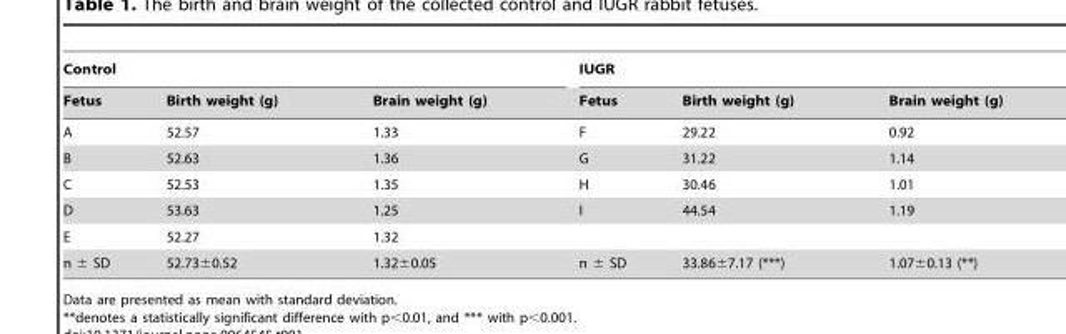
<table><thead><tr><td colspan="3">Control</td><td colspan="3">IUGR</td></tr><tr><td>Fetus</td><td>Birth weight (g)</td><td>Brain weight (g)</td><td>Fetus</td><td>Birth weight (g)</td><td>Brain weight (g)</td></tr></thead><tbody><tr><td>A</td><td>52.57</td><td>1.33</td><td>F</td><td>29.22</td><td>0.92</td></tr><tr><td>B</td><td>52.63</td><td>1.36</td><td>G</td><td>31.22</td><td>1.14</td></tr><tr><td>C</td><td>52.53</td><td>1.35</td><td>H</td><td>30.46</td><td>1.01</td></tr><tr><td>D</td><td>53.63</td><td>1.25</td><td>I</td><td>44.54</td><td>1.19</td></tr><tr><td>E</td><td>52.27</td><td>1.32</td><td></td><td></td><td></td></tr><tr><td>n ± SD</td><td>52.73±0.52</td><td>1.32±0.05</td><td>n ± SD</td><td>33.86±7.17 (***)</td><td>1.07±0.13 (**)</td></tr></tbody></table>